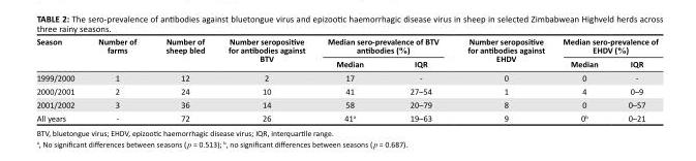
<table><thead><tr><td rowspan="2">Season</td><td rowspan="2">Number of farms</td><td rowspan="2">Number of sheep bled</td><td rowspan="2">Number seropositive for antibodies against BTV</td><td colspan="2">Median sero-prevalence of BTV antibodies (%)</td><td rowspan="2">Number seropositive for antibodies against EHDV</td><td colspan="2">Median sero-prevalence of EHDV (%)</td></tr><tr><td>Median</td><td>IQR</td><td>Median</td><td>IQR</td></tr></thead><tbody><tr><td>1999/2000</td><td>1</td><td>12</td><td>2</td><td>17</td><td>-</td><td>0</td><td>0</td><td>-</td></tr><tr><td>2000/2001</td><td>2</td><td>24</td><td>10</td><td>41</td><td>27–54</td><td>1</td><td>4</td><td>0–9</td></tr><tr><td>2001/2002</td><td>3</td><td>36</td><td>14</td><td>58</td><td>20–79</td><td>8</td><td>0</td><td>0–57</td></tr><tr><td>All years</td><td>-</td><td>72</td><td>26</td><td>41<sup>a</sup></td><td>19–63</td><td>9</td><td>0<sup>b</sup></td><td>0–21</td></tr></tbody></table>